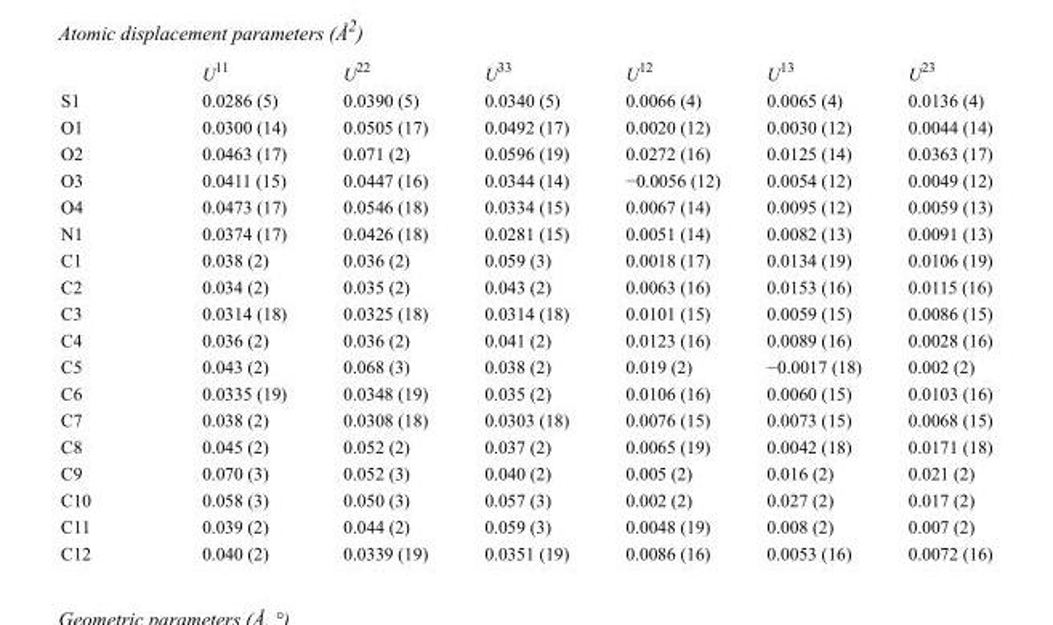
<table><thead><tr><td></td><td>U<sup>11</sup></td><td>U<sup>22</sup></td><td>U<sup>33</sup></td><td>U<sup>12</sup></td><td>U<sup>13</sup></td><td>U<sup>23</sup></td></tr></thead><tbody><tr><td>S1</td><td>0.0286 (5)</td><td>0.0390 (5)</td><td>0.0340 (5)</td><td>0.0066 (4)</td><td>0.0065 (4)</td><td>0.0136 (4)</td></tr><tr><td>O1</td><td>0.0300 (14)</td><td>0.0505 (17)</td><td>0.0492 (17)</td><td>0.0020 (12)</td><td>0.0030 (12)</td><td>0.0044 (14)</td></tr><tr><td>O2</td><td>0.0463 (17)</td><td>0.071 (2)</td><td>0.0596 (19)</td><td>0.0272 (16)</td><td>0.0125 (14)</td><td>0.0363 (17)</td></tr><tr><td>O3</td><td>0.0411 (15)</td><td>0.0447 (16)</td><td>0.0344 (14)</td><td>−0.0056 (12)</td><td>0.0054 (12)</td><td>0.0049 (12)</td></tr><tr><td>O4</td><td>0.0473 (17)</td><td>0.0546 (18)</td><td>0.0334 (15)</td><td>0.0067 (14)</td><td>0.0095 (12)</td><td>0.0059 (13)</td></tr><tr><td>N1</td><td>0.0374 (17)</td><td>0.0426 (18)</td><td>0.0281 (15)</td><td>0.0051 (14)</td><td>0.0082 (13)</td><td>0.0091 (13)</td></tr><tr><td>C1</td><td>0.038 (2)</td><td>0.036 (2)</td><td>0.059 (3)</td><td>0.0018 (17)</td><td>0.0134 (19)</td><td>0.0106 (19)</td></tr><tr><td>C2</td><td>0.034 (2)</td><td>0.035 (2)</td><td>0.043 (2)</td><td>0.0063 (16)</td><td>0.0153 (16)</td><td>0.0115 (16)</td></tr><tr><td>C3</td><td>0.0314 (18)</td><td>0.0325 (18)</td><td>0.0314 (18)</td><td>0.0101 (15)</td><td>0.0059 (15)</td><td>0.0086 (15)</td></tr><tr><td>C4</td><td>0.036 (2)</td><td>0.036 (2)</td><td>0.041 (2)</td><td>0.0123 (16)</td><td>0.0089 (16)</td><td>0.0028 (16)</td></tr><tr><td>C5</td><td>0.043 (2)</td><td>0.068 (3)</td><td>0.038 (2)</td><td>0.019 (2)</td><td>−0.0017 (18)</td><td>0.002 (2)</td></tr><tr><td>C6</td><td>0.0335 (19)</td><td>0.0348 (19)</td><td>0.035 (2)</td><td>0.0106 (16)</td><td>0.0060 (15)</td><td>0.0103 (16)</td></tr><tr><td>C7</td><td>0.038 (2)</td><td>0.0308 (18)</td><td>0.0303 (18)</td><td>0.0076 (15)</td><td>0.0073 (15)</td><td>0.0068 (15)</td></tr><tr><td>C8</td><td>0.045 (2)</td><td>0.052 (2)</td><td>0.037 (2)</td><td>0.0065 (19)</td><td>0.0042 (18)</td><td>0.0171 (18)</td></tr><tr><td>C9</td><td>0.070 (3)</td><td>0.052 (3)</td><td>0.040 (2)</td><td>0.005 (2)</td><td>0.016 (2)</td><td>0.021 (2)</td></tr><tr><td>C10</td><td>0.058 (3)</td><td>0.050 (3)</td><td>0.057 (3)</td><td>0.002 (2)</td><td>0.027 (2)</td><td>0.017 (2)</td></tr><tr><td>C11</td><td>0.039 (2)</td><td>0.044 (2)</td><td>0.059 (3)</td><td>0.0048 (19)</td><td>0.008 (2)</td><td>0.007 (2)</td></tr><tr><td>C12</td><td>0.040 (2)</td><td>0.0339 (19)</td><td>0.0351 (19)</td><td>0.0086 (16)</td><td>0.0053 (16)</td><td>0.0072 (16)</td></tr></tbody></table>